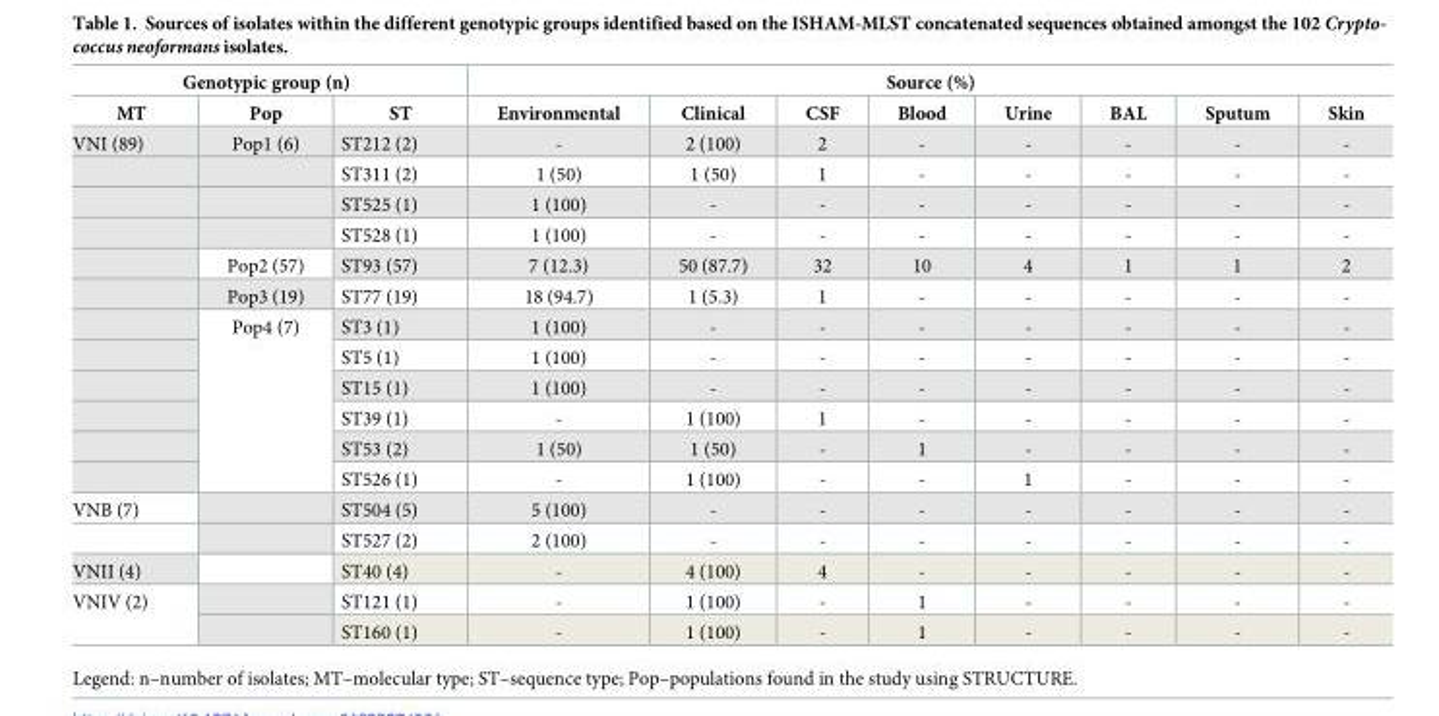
<table><thead><tr><td colspan="3">Genotypic group (n)</td><td colspan="8">Source (%)</td></tr><tr><td>MT</td><td>Pop</td><td>ST</td><td>Environmental</td><td>Clinical</td><td>CSF</td><td>Blood</td><td>Urine</td><td>BAL</td><td>Sputum</td><td>Skin</td></tr></thead><tbody><tr><td rowspan="12">VNI (89)</td><td>Pop1 (6)</td><td>ST212 (2)</td><td>-</td><td>2 (100)</td><td>2</td><td>-</td><td>-</td><td>-</td><td>-</td><td>-</td></tr><tr><td></td><td>ST311 (2)</td><td>1 (50)</td><td>1 (50)</td><td>1</td><td>-</td><td>-</td><td>-</td><td>-</td><td>-</td></tr><tr><td></td><td>ST525 (1)</td><td>1 (100)</td><td>-</td><td>-</td><td>-</td><td>-</td><td>-</td><td>-</td><td>-</td></tr><tr><td></td><td>ST528 (1)</td><td>1 (100)</td><td>-</td><td>-</td><td>-</td><td>-</td><td>-</td><td>-</td><td>-</td></tr><tr><td>Pop2 (57)</td><td>ST93 (57)</td><td>7 (12.3)</td><td>50 (87.7)</td><td>32</td><td>10</td><td>4</td><td>1</td><td>1</td><td>2</td></tr><tr><td>Pop3 (19)</td><td>ST77 (19)</td><td>18 (94.7)</td><td>1 (5.3)</td><td>1</td><td>-</td><td>-</td><td>-</td><td>-</td><td>-</td></tr><tr><td rowspan="6">Pop4 (7)</td><td>ST3 (1)</td><td>1 (100)</td><td>-</td><td>-</td><td>-</td><td>-</td><td>-</td><td>-</td><td>-</td></tr><tr><td>ST5 (1)</td><td>1 (100)</td><td>-</td><td>-</td><td>-</td><td>-</td><td>-</td><td>-</td><td>-</td></tr><tr><td>ST15 (1)</td><td>1 (100)</td><td>-</td><td>-</td><td>-</td><td>-</td><td>-</td><td>-</td><td>-</td></tr><tr><td>ST39 (1)</td><td>-</td><td>1 (100)</td><td>1</td><td>-</td><td>-</td><td>-</td><td>-</td><td>-</td></tr><tr><td>ST53 (2)</td><td>1 (50)</td><td>1 (50)</td><td>-</td><td>1</td><td>-</td><td>-</td><td>-</td><td>-</td></tr><tr><td>ST526 (1)</td><td>-</td><td>1 (100)</td><td>-</td><td>-</td><td>1</td><td>-</td><td>-</td><td>-</td></tr><tr><td rowspan="2">VNB (7)</td><td></td><td>ST504 (5)</td><td>5 (100)</td><td>-</td><td>-</td><td>-</td><td>-</td><td>-</td><td>-</td><td>-</td></tr><tr><td></td><td>ST527 (2)</td><td>2 (100)</td><td>-</td><td>-</td><td>-</td><td>-</td><td>-</td><td>-</td><td>-</td></tr><tr><td>VNII (4)</td><td></td><td>ST40 (4)</td><td>-</td><td>4 (100)</td><td>4</td><td>-</td><td>-</td><td>-</td><td>-</td><td>-</td></tr><tr><td rowspan="2">VNIV (2)</td><td></td><td>ST121 (1)</td><td>-</td><td>1 (100)</td><td>-</td><td>1</td><td>-</td><td>-</td><td>-</td><td>-</td></tr><tr><td></td><td>ST160 (1)</td><td>-</td><td>1 (100)</td><td>-</td><td>1</td><td>-</td><td>-</td><td>-</td><td>-</td></tr></tbody></table>